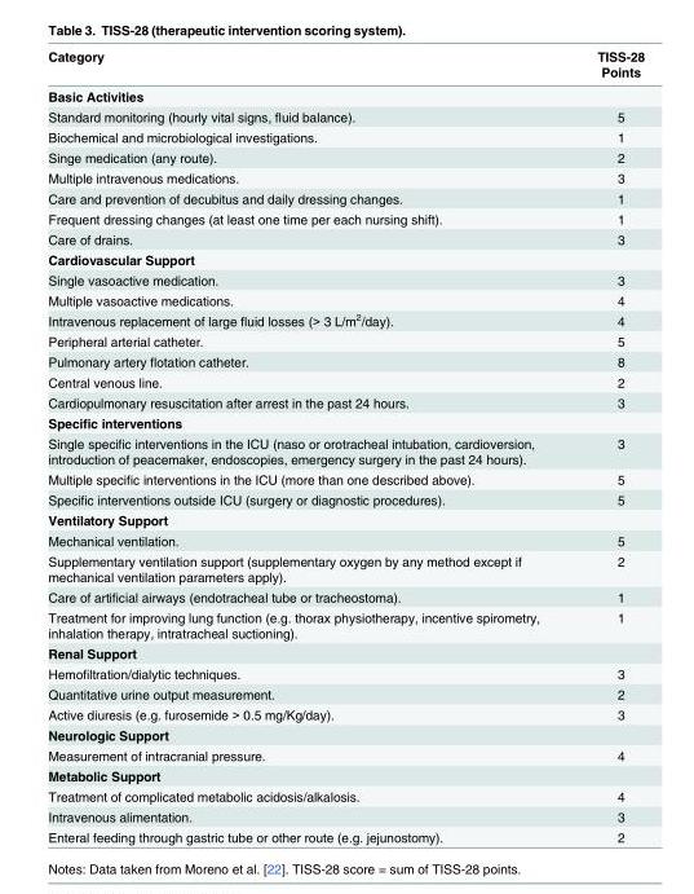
<table><thead><tr><td>Category</td><td>TISS-28 Points</td></tr></thead><tbody><tr><td colspan="2">Basic Activities</td></tr><tr><td>Standard monitoring (hourly vital signs, fluid balance).</td><td>5</td></tr><tr><td>Biochemical and microbiological investigations.</td><td>1</td></tr><tr><td>Singe medication (any route).</td><td>2</td></tr><tr><td>Multiple intravenous medications.</td><td>3</td></tr><tr><td>Care and prevention of decubitus and daily dressing changes.</td><td>1</td></tr><tr><td>Frequent dressing changes (at least one time per each nursing shift).</td><td>1</td></tr><tr><td>Care of drains.</td><td>3</td></tr><tr><td colspan="2">Cardiovascular Support</td></tr><tr><td>Single vasoactive medication.</td><td>3</td></tr><tr><td>Multiple vasoactive medications.</td><td>4</td></tr><tr><td>Intravenous replacement of large fluid losses (&gt; 3 L/m<sup>2</sup>/day).</td><td>4</td></tr><tr><td>Peripheral arterial catheter.</td><td>5</td></tr><tr><td>Pulmonary artery flotation catheter.</td><td>8</td></tr><tr><td>Central venous line.</td><td>2</td></tr><tr><td>Cardiopulmonary resuscitation after arrest in the past 24 hours.</td><td>3</td></tr><tr><td colspan="2">Specific interventions</td></tr><tr><td>Single specific interventions in the ICU (naso or orotracheal intubation, cardioversion, introduction of peacemaker, endoscopies, emergency surgery in the past 24 hours).</td><td>3</td></tr><tr><td>Multiple specific interventions in the ICU (more than one described above).</td><td>5</td></tr><tr><td>Specific interventions outside ICU (surgery or diagnostic procedures).</td><td>5</td></tr><tr><td colspan="2">Ventilatory Support</td></tr><tr><td>Mechanical ventilation.</td><td>5</td></tr><tr><td>Supplementary ventilation support (supplementary oxygen by any method except if mechanical ventilation parameters apply).</td><td>2</td></tr><tr><td>Care of artificial airways (endotracheal tube or tracheostoma).</td><td>1</td></tr><tr><td>Treatment for improving lung function (e.g. thorax physiotherapy, incentive spirometry, inhalation therapy, intratracheal suctioning).</td><td>1</td></tr><tr><td colspan="2">Renal Support</td></tr><tr><td>Hemofiltration/dialytic techniques.</td><td>3</td></tr><tr><td>Quantitative urine output measurement.</td><td>2</td></tr><tr><td>Active diuresis (e.g. furosemide &gt; 0.5 mg/Kg/day).</td><td>3</td></tr><tr><td colspan="2">Neurologic Support</td></tr><tr><td>Measurement of intracranial pressure.</td><td>4</td></tr><tr><td colspan="2">Metabolic Support</td></tr><tr><td>Treatment of complicated metabolic acidosis/alkalosis.</td><td>4</td></tr><tr><td>Intravenous alimentation.</td><td>3</td></tr><tr><td>Enteral feeding through gastric tube or other route (e.g. jejunostomy).</td><td>2</td></tr></tbody></table>